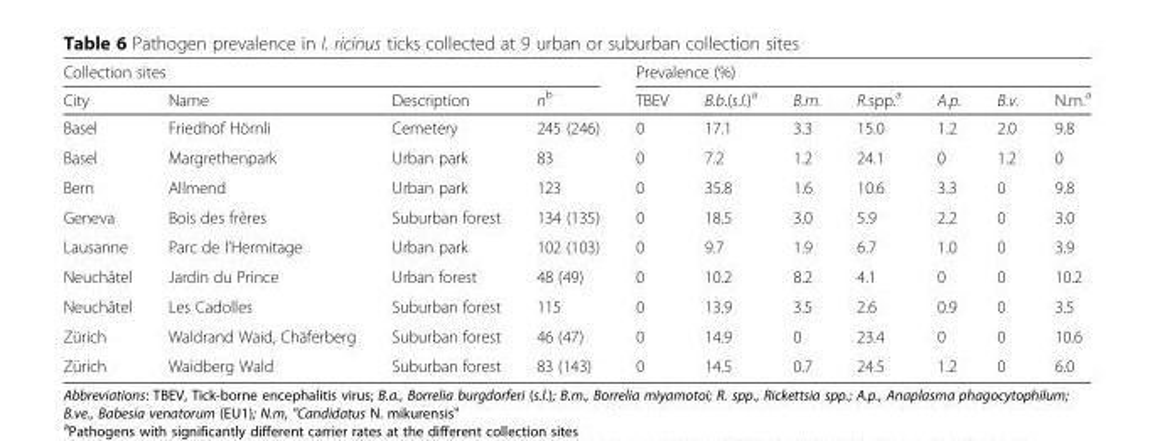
<table><thead><tr><td colspan="4">Collection sites</td><td colspan="7">Prevalence (%)</td></tr><tr><td>City</td><td>Name</td><td>Description</td><td>n<sup>b</sup></td><td>TBEV</td><td>B.b.(s.l.)<sup>a</sup></td><td>B.m.</td><td>R.spp.<sup>a</sup></td><td>A.p.</td><td>B.v.</td><td>N.m.<sup>a</sup></td></tr></thead><tbody><tr><td>Basel</td><td>Friedhof Hörnli</td><td>Cemetery</td><td>245 (246)</td><td>0</td><td>17.1</td><td>3.3</td><td>15.0</td><td>1.2</td><td>2.0</td><td>9.8</td></tr><tr><td>Basel</td><td>Margrethenpark</td><td>Urban park</td><td>83</td><td>0</td><td>7.2</td><td>1.2</td><td>24.1</td><td>0</td><td>1.2</td><td>0</td></tr><tr><td>Bern</td><td>Allmend</td><td>Urban park</td><td>123</td><td>0</td><td>35.8</td><td>1.6</td><td>10.6</td><td>3.3</td><td>0</td><td>9.8</td></tr><tr><td>Geneva</td><td>Bois des frères</td><td>Suburban forest</td><td>134 (135)</td><td>0</td><td>18.5</td><td>3.0</td><td>5.9</td><td>2.2</td><td>0</td><td>3.0</td></tr><tr><td>Lausanne</td><td>Parc de l’Hermitage</td><td>Urban park</td><td>102 (103)</td><td>0</td><td>9.7</td><td>1.9</td><td>6.7</td><td>1.0</td><td>0</td><td>3.9</td></tr><tr><td>Neuchâtel</td><td>Jardin du Prince</td><td>Urban forest</td><td>48 (49)</td><td>0</td><td>10.2</td><td>8.2</td><td>4.1</td><td>0</td><td>0</td><td>10.2</td></tr><tr><td>Neuchâtel</td><td>Les Cadolles</td><td>Suburban forest</td><td>115</td><td>0</td><td>13.9</td><td>3.5</td><td>2.6</td><td>0.9</td><td>0</td><td>3.5</td></tr><tr><td>Zürich</td><td>Waldrand Waid, Chäferberg</td><td>Suburban forest</td><td>46 (47)</td><td>0</td><td>14.9</td><td>0</td><td>23.4</td><td>0</td><td>0</td><td>10.6</td></tr><tr><td>Zürich</td><td>Waidberg Wald</td><td>Suburban forest</td><td>83 (143)</td><td>0</td><td>14.5</td><td>0.7</td><td>24.5</td><td>1.2</td><td>0</td><td>6.0</td></tr></tbody></table>